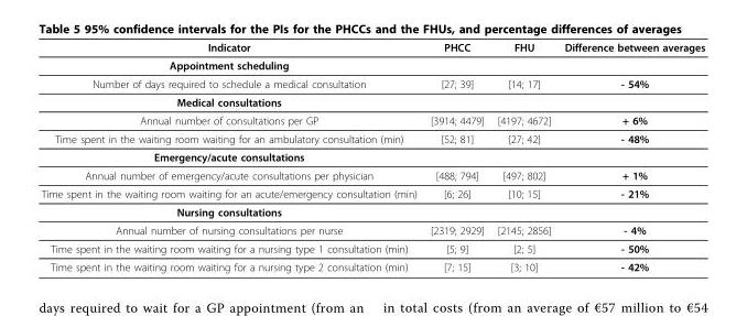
<table><thead><tr><td>Indicator</td><td>PHCC</td><td>FHU</td><td>Difference between averages</td></tr></thead><tbody><tr><td colspan="4">Appointment scheduling</td></tr><tr><td>Number of days required to schedule a medical consultation</td><td>[27; 39]</td><td>[14; 17]</td><td>- 54%</td></tr><tr><td colspan="4">Medical consultations</td></tr><tr><td>Annual number of consultations per GP</td><td>[3914; 4479]</td><td>[4197; 4672]</td><td>+ 6%</td></tr><tr><td>Time spent in the waiting room waiting for an ambulatory consultation (min)</td><td>[52; 81]</td><td>[27; 42]</td><td>- 48%</td></tr><tr><td colspan="4">Emergency/acute consultations</td></tr><tr><td>Annual number of emergency/acute consultations per physician</td><td>[488; 794]</td><td>[497; 802]</td><td>+ 1%</td></tr><tr><td>Time spent in the waiting room waiting for an acute/emergency consultation (min)</td><td>[6; 26]</td><td>[10; 15]</td><td>- 21%</td></tr><tr><td colspan="4">Nursing consultations</td></tr><tr><td>Annual number of nursing consultations per nurse</td><td>[2319; 2929]</td><td>[2145; 2856]</td><td>- 4%</td></tr><tr><td>Time spent in the waiting room waiting for a nursing type 1 consultation (min)</td><td>[5; 9]</td><td>[2; 5]</td><td>- 50%</td></tr><tr><td>Time spent in the waiting room waiting for a nursing type 2 consultation (min)</td><td>[7; 15]</td><td>[3; 10]</td><td>- 42%</td></tr></tbody></table>